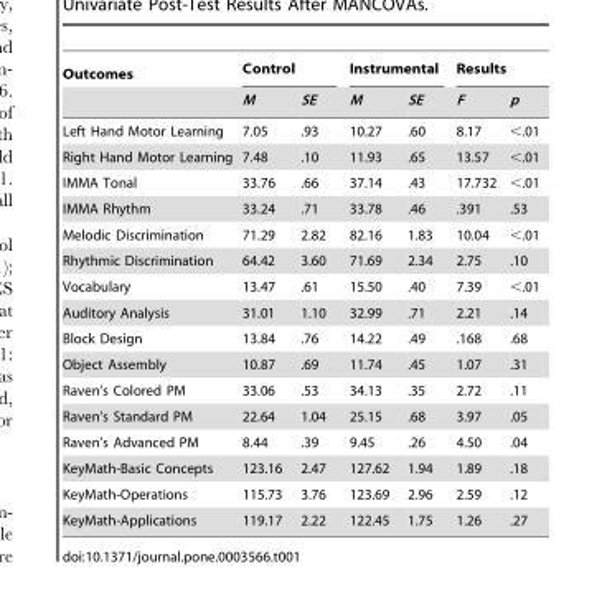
<table><thead><tr><td rowspan="2">Outcomes</td><td colspan="2">Control</td><td colspan="2">Instrumental</td><td colspan="2">Results</td></tr><tr><td>M</td><td>SE</td><td>M</td><td>SE</td><td>F</td><td>p</td></tr></thead><tbody><tr><td>Left Hand Motor Learning</td><td>7.05</td><td>.93</td><td>10.27</td><td>.60</td><td>8.17</td><td>&lt;.01</td></tr><tr><td>Right Hand Motor Learning</td><td>7.48</td><td>.10</td><td>11.93</td><td>.65</td><td>13.57</td><td>&lt;.01</td></tr><tr><td>IMMA Tonal</td><td>33.76</td><td>.66</td><td>37.14</td><td>.43</td><td>17.732</td><td>&lt;.01</td></tr><tr><td>IMMA Rhythm</td><td>33.24</td><td>.71</td><td>33.78</td><td>.46</td><td>.391</td><td>.53</td></tr><tr><td>Melodic Discrimination</td><td>71.29</td><td>2.82</td><td>82.16</td><td>1.83</td><td>10.04</td><td>&lt;.01</td></tr><tr><td>Rhythmic Discrimination</td><td>64.42</td><td>3.60</td><td>71.69</td><td>2.34</td><td>2.75</td><td>.10</td></tr><tr><td>Vocabulary</td><td>13.47</td><td>.61</td><td>15.50</td><td>.40</td><td>7.39</td><td>&lt;.01</td></tr><tr><td>Auditory Analysis</td><td>31.01</td><td>1.10</td><td>32.99</td><td>.71</td><td>2.21</td><td>.14</td></tr><tr><td>Block Design</td><td>13.84</td><td>.76</td><td>14.22</td><td>.49</td><td>.168</td><td>.68</td></tr><tr><td>Object Assembly</td><td>10.87</td><td>.69</td><td>11.74</td><td>.45</td><td>1.07</td><td>.31</td></tr><tr><td>Raven’s Colored PM</td><td>33.06</td><td>.53</td><td>34.13</td><td>.35</td><td>2.72</td><td>.11</td></tr><tr><td>Raven’s Standard PM</td><td>22.64</td><td>1.04</td><td>25.15</td><td>.68</td><td>3.97</td><td>.05</td></tr><tr><td>Raven’s Advanced PM</td><td>8.44</td><td>.39</td><td>9.45</td><td>.26</td><td>4.50</td><td>.04</td></tr><tr><td>KeyMath-Basic Concepts</td><td>123.16</td><td>2.47</td><td>127.62</td><td>1.94</td><td>1.89</td><td>.18</td></tr><tr><td>KeyMath-Operations</td><td>115.73</td><td>3.76</td><td>123.69</td><td>2.96</td><td>2.59</td><td>.12</td></tr><tr><td>KeyMath-Applications</td><td>119.17</td><td>2.22</td><td>122.45</td><td>1.75</td><td>1.26</td><td>.27</td></tr></tbody></table>